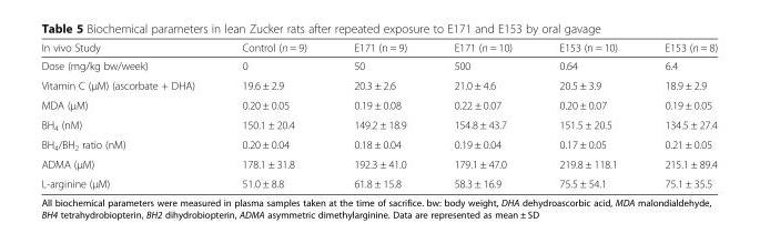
<table><thead><tr><td>In vivo Study</td><td>Control (n = 9)</td><td>E171 (n = 9)</td><td>E171 (n = 10)</td><td>E153 (n = 10)</td><td>E153 (n = 8)</td></tr></thead><tbody><tr><td>Dose (mg/kg bw/week)</td><td>0</td><td>50</td><td>500</td><td>0.64</td><td>6.4</td></tr><tr><td>Vitamin C (μM) (ascorbate + DHA)</td><td>19.6 ± 2.9</td><td>20.3 ± 2.6</td><td>21.0 ± 4.6</td><td>20.5 ± 3.9</td><td>18.9 ± 2.9</td></tr><tr><td>MDA (μM)</td><td>0.20 ± 0.05</td><td>0.19 ± 0.08</td><td>0.22 ± 0.07</td><td>0.20 ± 0.07</td><td>0.19 ± 0.05</td></tr><tr><td>BH<sub>4</sub> (nM)</td><td>150.1 ± 20.4</td><td>149.2 ± 18.9</td><td>154.8 ± 43.7</td><td>151.5 ± 20.5</td><td>134.5 ± 27.4</td></tr><tr><td>BH<sub>4</sub>/BH<sub>2</sub> ratio (nM)</td><td>0.20 ± 0.04</td><td>0.18 ± 0.04</td><td>0.19 ± 0.04</td><td>0.17 ± 0.05</td><td>0.21 ± 0.05</td></tr><tr><td>ADMA (μM)</td><td>178.1 ± 31.8</td><td>192.3 ± 41.0</td><td>179.1 ± 47.0</td><td>219.8 ± 118.1</td><td>215.1 ± 89.4</td></tr><tr><td>L-arginine (μM)</td><td>51.0 ± 8.8</td><td>61.8 ± 15.8</td><td>58.3 ± 16.9</td><td>75.5 ± 54.1</td><td>75.1 ± 35.5</td></tr></tbody></table>